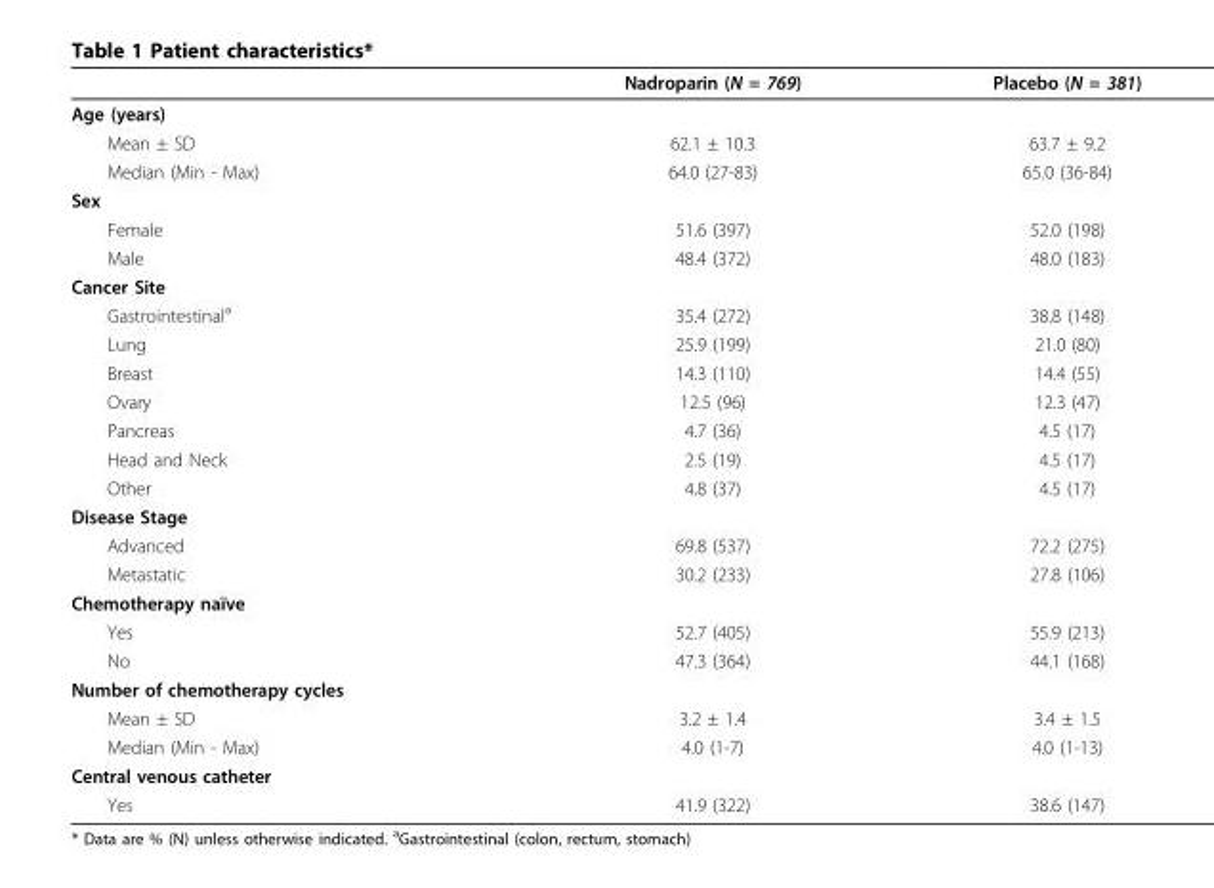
<table><thead><tr><td></td><td>Nadroparin (N = 769)</td><td>Placebo (N = 381)</td></tr></thead><tbody><tr><td colspan="3">Age (years)</td></tr><tr><td>Mean ± SD</td><td>62.1 ± 10.3</td><td>63.7 ± 9.2</td></tr><tr><td>Median (Min - Max)</td><td>64.0 (27-83)</td><td>65.0 (36-84)</td></tr><tr><td colspan="3">Sex</td></tr><tr><td>Female</td><td>51.6 (397)</td><td>52.0 (198)</td></tr><tr><td>Male</td><td>48.4 (372)</td><td>48.0 (183)</td></tr><tr><td colspan="3">Cancer Site</td></tr><tr><td>Gastrointestinal<sup>a</sup></td><td>35.4 (272)</td><td>38.8 (148)</td></tr><tr><td>Lung</td><td>25.9 (199)</td><td>21.0 (80)</td></tr><tr><td>Breast</td><td>14.3 (110)</td><td>14.4 (55)</td></tr><tr><td>Ovary</td><td>12.5 (96)</td><td>12.3 (47)</td></tr><tr><td>Pancreas</td><td>4.7 (36)</td><td>4.5 (17)</td></tr><tr><td>Head and Neck</td><td>2.5 (19)</td><td>4.5 (17)</td></tr><tr><td>Other</td><td>4.8 (37)</td><td>4.5 (17)</td></tr><tr><td colspan="3">Disease Stage</td></tr><tr><td>Advanced</td><td>69.8 (537)</td><td>72.2 (275)</td></tr><tr><td>Metastatic</td><td>30.2 (233)</td><td>27.8 (106)</td></tr><tr><td colspan="3">Chemotherapy naïve</td></tr><tr><td>Yes</td><td>52.7 (405)</td><td>55.9 (213)</td></tr><tr><td>No</td><td>47.3 (364)</td><td>44.1 (168)</td></tr><tr><td colspan="3">Number of chemotherapy cycles</td></tr><tr><td>Mean ± SD</td><td>3.2 ± 1.4</td><td>3.4 ± 1.5</td></tr><tr><td>Median (Min - Max)</td><td>4.0 (1-7)</td><td>4.0 (1-13)</td></tr><tr><td colspan="3">Central venous catheter</td></tr><tr><td>Yes</td><td>41.9 (322)</td><td>38.6 (147)</td></tr></tbody></table>